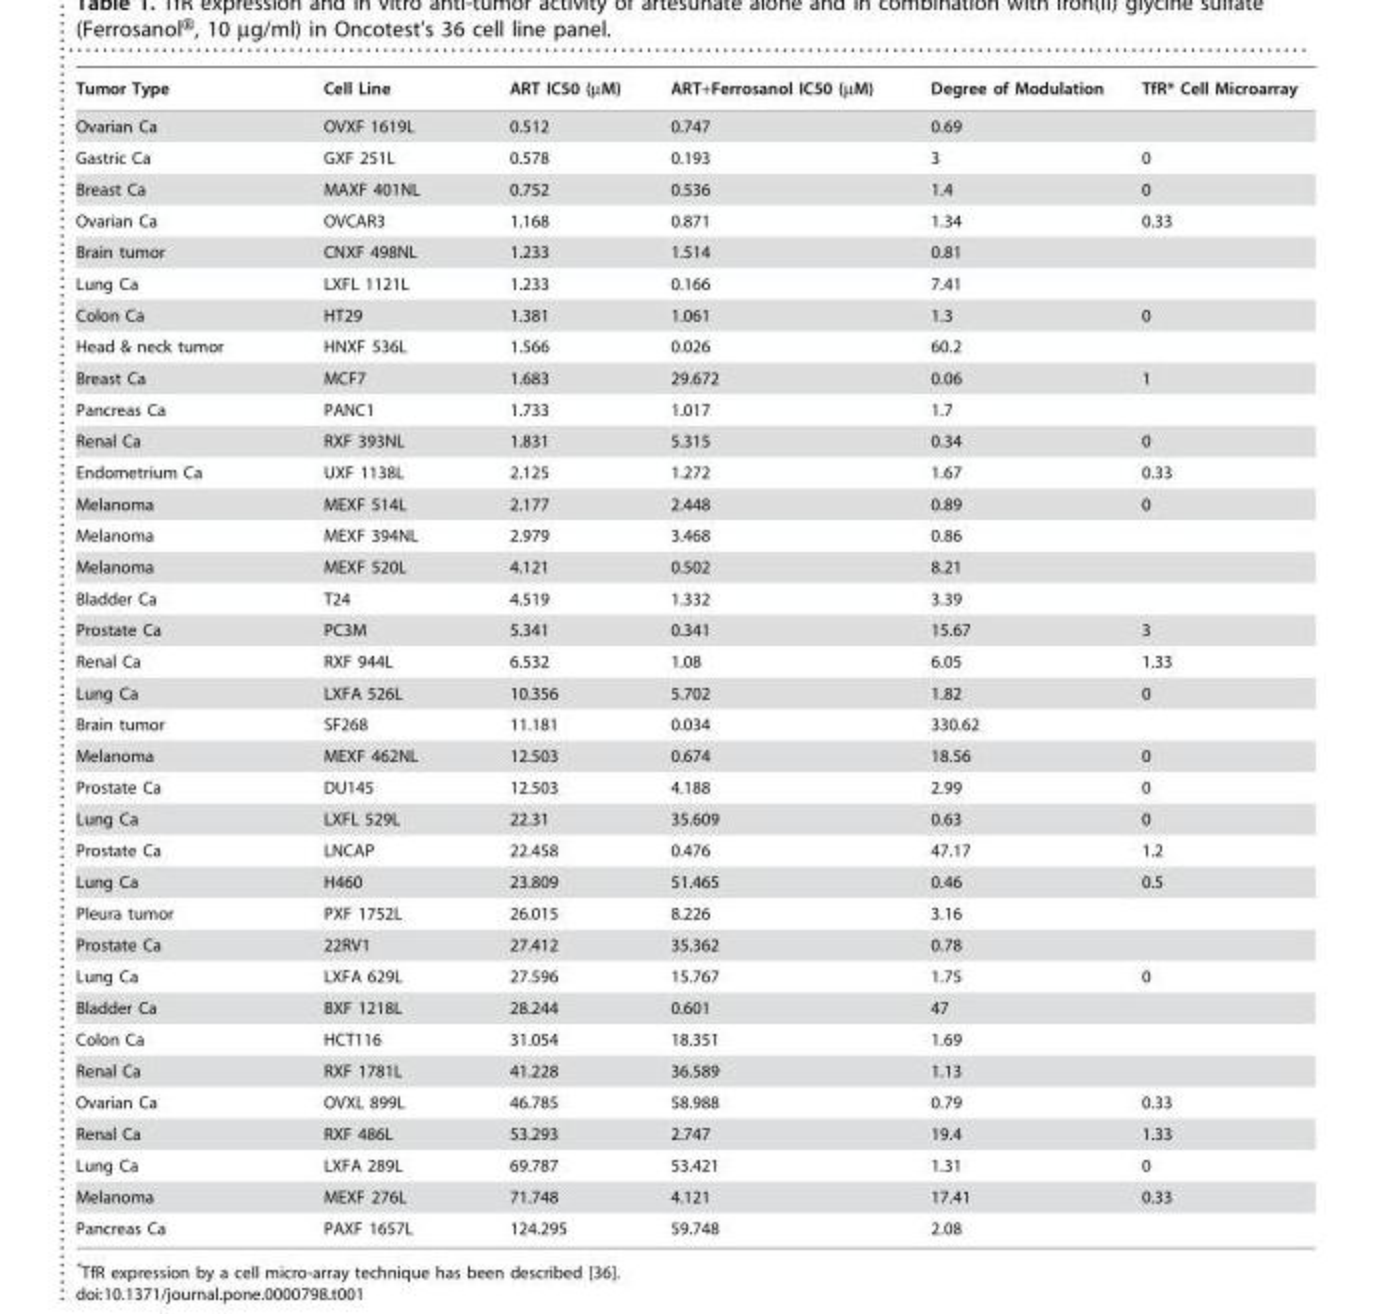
<table><thead><tr><td>Tumor Type</td><td>Cell Line</td><td>ART IC50 (µM)</td><td>ART+Ferrosanol IC50 (µM)</td><td>Degree of Modulation</td><td>TfR* Cell Microarray</td></tr></thead><tbody><tr><td>Ovarian Ca</td><td>OVXF 1619L</td><td>0.512</td><td>0.747</td><td>0.69</td><td></td></tr><tr><td>Gastric Ca</td><td>GXF 251L</td><td>0.578</td><td>0.193</td><td>3</td><td>0</td></tr><tr><td>Breast Ca</td><td>MAXF 401NL</td><td>0.752</td><td>0.536</td><td>1.4</td><td>0</td></tr><tr><td>Ovarian Ca</td><td>OVCAR3</td><td>1.168</td><td>0.871</td><td>1.34</td><td>0.33</td></tr><tr><td>Brain tumor</td><td>CNXF 498NL</td><td>1.233</td><td>1.514</td><td>0.81</td><td></td></tr><tr><td>Lung Ca</td><td>LXFL 1121L</td><td>1.233</td><td>0.166</td><td>7.41</td><td></td></tr><tr><td>Colon Ca</td><td>HT29</td><td>1.381</td><td>1.061</td><td>1.3</td><td>0</td></tr><tr><td>Head &amp; neck tumor</td><td>HNXF 536L</td><td>1.566</td><td>0.026</td><td>60.2</td><td></td></tr><tr><td>Breast Ca</td><td>MCF7</td><td>1.683</td><td>29.672</td><td>0.06</td><td>1</td></tr><tr><td>Pancreas Ca</td><td>PANC1</td><td>1.733</td><td>1.017</td><td>1.7</td><td></td></tr><tr><td>Renal Ca</td><td>RXF 393NL</td><td>1.831</td><td>5.315</td><td>0.34</td><td>0</td></tr><tr><td>Endometrium Ca</td><td>UXF 1138L</td><td>2.125</td><td>1.272</td><td>1.67</td><td>0.33</td></tr><tr><td>Melanoma</td><td>MEXF 514L</td><td>2.177</td><td>2.448</td><td>0.89</td><td>0</td></tr><tr><td>Melanoma</td><td>MEXF 394NL</td><td>2.979</td><td>3.468</td><td>0.86</td><td></td></tr><tr><td>Melanoma</td><td>MEXF 520L</td><td>4.121</td><td>0.502</td><td>8.21</td><td></td></tr><tr><td>Bladder Ca</td><td>T24</td><td>4.519</td><td>1.332</td><td>3.39</td><td></td></tr><tr><td>Prostate Ca</td><td>PC3M</td><td>5.341</td><td>0.341</td><td>15.67</td><td>3</td></tr><tr><td>Renal Ca</td><td>RXF 944L</td><td>6.532</td><td>1.08</td><td>6.05</td><td>1.33</td></tr><tr><td>Lung Ca</td><td>LXFA 526L</td><td>10.356</td><td>5.702</td><td>1.82</td><td>0</td></tr><tr><td>Brain tumor</td><td>SF268</td><td>11.181</td><td>0.034</td><td>330.62</td><td></td></tr><tr><td>Melanoma</td><td>MEXF 462NL</td><td>12.503</td><td>0.674</td><td>18.56</td><td>0</td></tr><tr><td>Prostate Ca</td><td>DU145</td><td>12.503</td><td>4.188</td><td>2.99</td><td>0</td></tr><tr><td>Lung Ca</td><td>LXFL 529L</td><td>22.31</td><td>35.609</td><td>0.63</td><td>0</td></tr><tr><td>Prostate Ca</td><td>LNCAP</td><td>22.458</td><td>0.476</td><td>47.17</td><td>1.2</td></tr><tr><td>Lung Ca</td><td>H460</td><td>23.809</td><td>51.465</td><td>0.46</td><td>0.5</td></tr><tr><td>Pleura tumor</td><td>PXF 1752L</td><td>26.015</td><td>8.226</td><td>3.16</td><td></td></tr><tr><td>Prostate Ca</td><td>22RV1</td><td>27.412</td><td>35.362</td><td>0.78</td><td></td></tr><tr><td>Lung Ca</td><td>LXFA 629L</td><td>27.596</td><td>15.767</td><td>1.75</td><td>0</td></tr><tr><td>Bladder Ca</td><td>BXF 1218L</td><td>28.244</td><td>0.601</td><td>47</td><td></td></tr><tr><td>Colon Ca</td><td>HCT116</td><td>31.054</td><td>18.351</td><td>1.69</td><td></td></tr><tr><td>Renal Ca</td><td>RXF 1781L</td><td>41.228</td><td>36.589</td><td>1.13</td><td></td></tr><tr><td>Ovarian Ca</td><td>OVXL 899L</td><td>46.785</td><td>58.988</td><td>0.79</td><td>0.33</td></tr><tr><td>Renal Ca</td><td>RXF 486L</td><td>53.293</td><td>2.747</td><td>19.4</td><td>1.33</td></tr><tr><td>Lung Ca</td><td>LXFA 289L</td><td>69.787</td><td>53.421</td><td>1.31</td><td>0</td></tr><tr><td>Melanoma</td><td>MEXF 276L</td><td>71.748</td><td>4.121</td><td>17.41</td><td>0.33</td></tr><tr><td>Pancreas Ca</td><td>PAXF 1657L</td><td>124.295</td><td>59.748</td><td>2.08</td><td></td></tr></tbody></table>